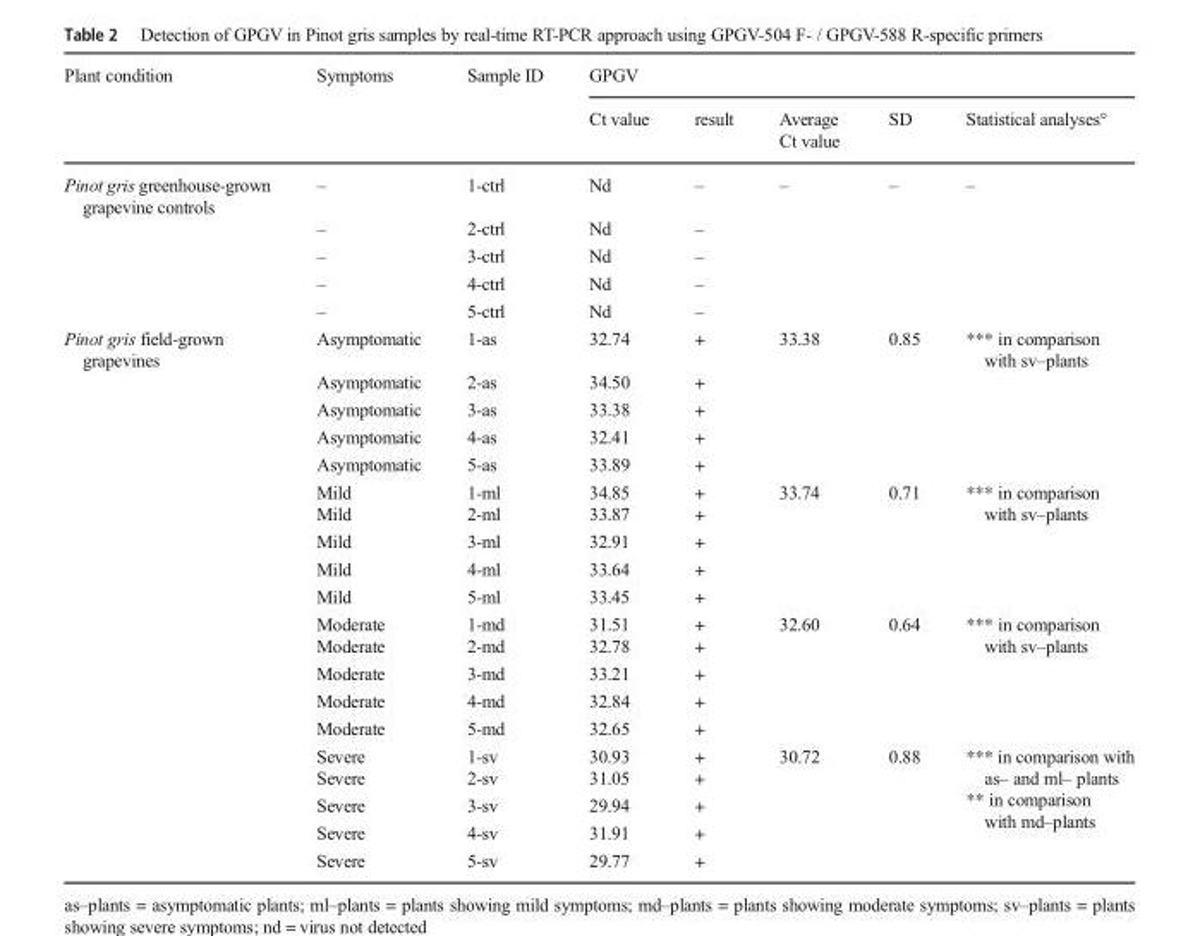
<table><thead><tr><td rowspan="2">Plant condition</td><td rowspan="2">Symptoms</td><td rowspan="2">Sample ID</td><td colspan="5">GPGV</td></tr><tr><td>Ct value</td><td>result</td><td>Average Ct value</td><td>SD</td><td>Statistical analyses°</td></tr></thead><tbody><tr><td rowspan="5">Pinot gris greenhouse-grown grapevine controls</td><td>–</td><td>1-ctrl</td><td>Nd</td><td>–</td><td rowspan="5">–</td><td rowspan="5">–</td><td rowspan="5">–</td></tr><tr><td>–</td><td>2-ctrl</td><td>Nd</td><td>–</td></tr><tr><td>–</td><td>3-ctrl</td><td>Nd</td><td>–</td></tr><tr><td>–</td><td>4-ctrl</td><td>Nd</td><td>–</td></tr><tr><td>–</td><td>5-ctrl</td><td>Nd</td><td>–</td></tr><tr><td rowspan="20">Pinot gris field-grown grapevines</td><td>Asymptomatic</td><td>1-as</td><td>32.74</td><td>+</td><td rowspan="5">33.38</td><td rowspan="5">0.85</td><td rowspan="5">*** in comparison with sv–plants</td></tr><tr><td>Asymptomatic</td><td>2-as</td><td>34.50</td><td>+</td></tr><tr><td>Asymptomatic</td><td>3-as</td><td>33.38</td><td>+</td></tr><tr><td>Asymptomatic</td><td>4-as</td><td>32.41</td><td>+</td></tr><tr><td>Asymptomatic</td><td>5-as</td><td>33.89</td><td>+</td></tr><tr><td>Mild</td><td>1-ml</td><td>34.85</td><td>+</td><td rowspan="5">33.74</td><td rowspan="5">0.71</td><td rowspan="5">*** in comparison with sv–plants</td></tr><tr><td>Mild</td><td>2-ml</td><td>33.87</td><td>+</td></tr><tr><td>Mild</td><td>3-ml</td><td>32.91</td><td>+</td></tr><tr><td>Mild</td><td>4-ml</td><td>33.64</td><td>+</td></tr><tr><td>Mild</td><td>5-ml</td><td>33.45</td><td>+</td></tr><tr><td>Moderate</td><td>1-md</td><td>31.51</td><td>+</td><td rowspan="5">32.60</td><td rowspan="5">0.64</td><td rowspan="5">*** in comparison with sv–plants</td></tr><tr><td>Moderate</td><td>2-md</td><td>32.78</td><td>+</td></tr><tr><td>Moderate</td><td>3-md</td><td>33.21</td><td>+</td></tr><tr><td>Moderate</td><td>4-md</td><td>32.84</td><td>+</td></tr><tr><td>Moderate</td><td>5-md</td><td>32.65</td><td>+</td></tr><tr><td>Severe</td><td>1-sv</td><td>30.93</td><td>+</td><td rowspan="5">30.72</td><td rowspan="5">0.88</td><td rowspan="5">*** in comparison with as– and ml– plants ** in comparison with md–plants</td></tr><tr><td>Severe</td><td>2-sv</td><td>31.05</td><td>+</td></tr><tr><td>Severe</td><td>3-sv</td><td>29.94</td><td>+</td></tr><tr><td>Severe</td><td>4-sv</td><td>31.91</td><td>+</td></tr><tr><td>Severe</td><td>5-sv</td><td>29.77</td><td>+</td></tr></tbody></table>